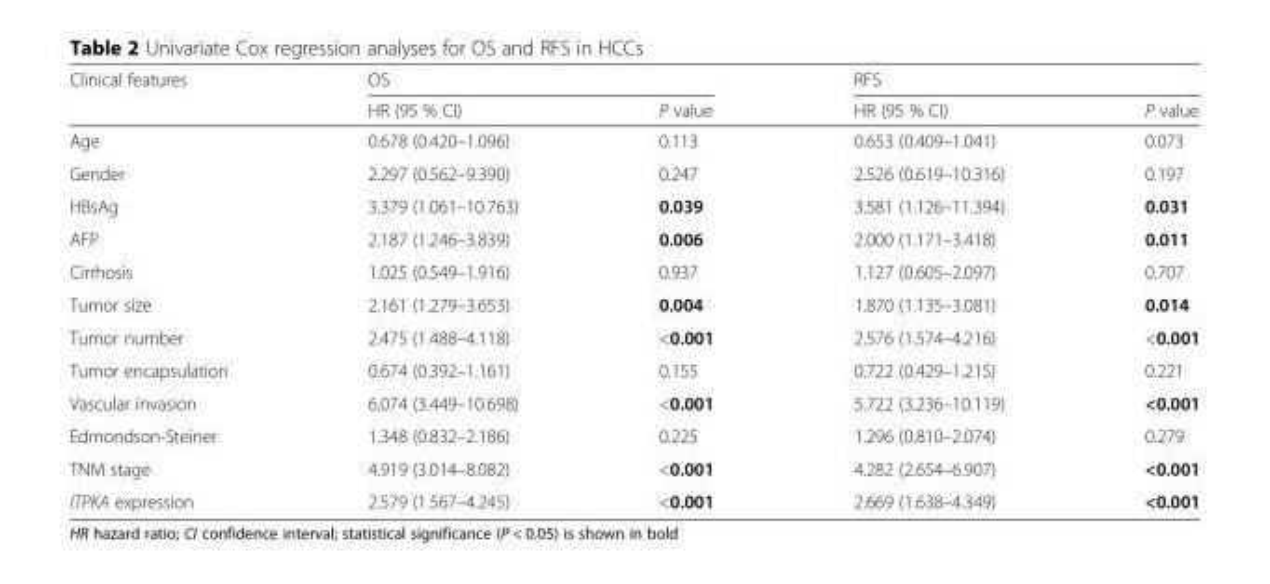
<table><thead><tr><td rowspan="2">Clinical features</td><td colspan="2">OS</td><td colspan="2">RFS</td></tr><tr><td>HR (95 % CI)</td><td>P value</td><td>HR (95 % CI)</td><td>P value</td></tr></thead><tbody><tr><td>Age</td><td>0.678 (0.420–1.096)</td><td>0.113</td><td>0.653 (0.409–1.041)</td><td>0.073</td></tr><tr><td>Gender</td><td>2.297 (0.562–9.390)</td><td>0.247</td><td>2.526 (0.619–10.316)</td><td>0.197</td></tr><tr><td>HBsAg</td><td>3.379 (1.061–10.763)</td><td>0.039</td><td>3.581 (1.126–11.394)</td><td>0.031</td></tr><tr><td>AFP</td><td>2.187 (1.246–3.839)</td><td>0.006</td><td>2.000 (1.171–3.418)</td><td>0.011</td></tr><tr><td>Cirrhosis</td><td>1.025 (0.549–1.916)</td><td>0.937</td><td>1.127 (0.605–2.097)</td><td>0.707</td></tr><tr><td>Tumor size</td><td>2.161 (1.279–3.653)</td><td>0.004</td><td>1.870 (1.135–3.081)</td><td>0.014</td></tr><tr><td>Tumor number</td><td>2.475 (1.488–4.118)</td><td>&lt;0.001</td><td>2.576 (1.574–4.216)</td><td>&lt;0.001</td></tr><tr><td>Tumor encapsulation</td><td>0.674 (0.392–1.161)</td><td>0.155</td><td>0.722 (0.429–1.215)</td><td>0.221</td></tr><tr><td>Vascular invasion</td><td>6.074 (3.449–10.698)</td><td>&lt;0.001</td><td>5.722 (3.236–10.119)</td><td>&lt;0.001</td></tr><tr><td>Edmondson-Steiner</td><td>1.348 (0.832–2.186)</td><td>0.225</td><td>1.296 (0.810–2.074)</td><td>0.279</td></tr><tr><td>TNM stage</td><td>4.919 (3.014–8.082)</td><td>&lt;0.001</td><td>4.282 (2.654–6.907)</td><td>&lt;0.001</td></tr><tr><td>ITPKA expression</td><td>2.579 (1.567–4.245)</td><td>&lt;0.001</td><td>2.669 (1.638–4.349)</td><td>&lt;0.001</td></tr></tbody></table>